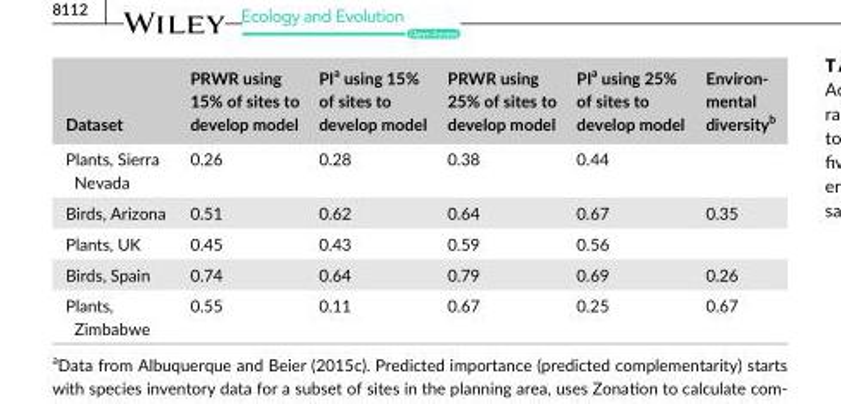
<table><thead><tr><td>Dataset</td><td>PRWR using 15% of sites to develop model</td><td>PI<sup>a</sup> using 15% of sites to develop model</td><td>PRWR using 25% of sites to develop model</td><td>PI<sup>a</sup> using 25% of sites to develop model</td><td>Environ- mental diversity<sup>b</sup></td></tr></thead><tbody><tr><td>Plants, Sierra Nevada</td><td>0.26</td><td>0.28</td><td>0.38</td><td>0.44</td><td></td></tr><tr><td>Birds, Arizona</td><td>0.51</td><td>0.62</td><td>0.64</td><td>0.67</td><td>0.35</td></tr><tr><td>Plants, UK</td><td>0.45</td><td>0.43</td><td>0.59</td><td>0.56</td><td></td></tr><tr><td>Birds, Spain</td><td>0.74</td><td>0.64</td><td>0.79</td><td>0.69</td><td>0.26</td></tr><tr><td>Plants, Zimbabwe</td><td>0.55</td><td>0.11</td><td>0.67</td><td>0.25</td><td>0.67</td></tr></tbody></table>